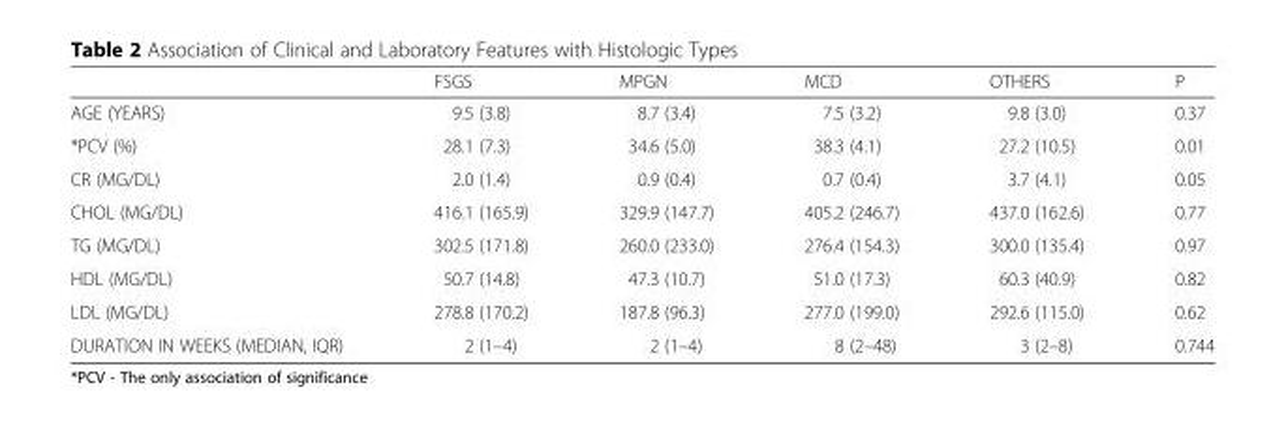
<table><thead><tr><td></td><td>FSGS</td><td>MPGN</td><td>MCD</td><td>OTHERS</td><td>P</td></tr></thead><tbody><tr><td>AGE (YEARS)</td><td>9.5 (3.8)</td><td>8.7 (3.4)</td><td>7.5 (3.2)</td><td>9.8 (3.0)</td><td>0.37</td></tr><tr><td>*PCV (%)</td><td>28.1 (7.3)</td><td>34.6 (5.0)</td><td>38.3 (4.1)</td><td>27.2 (10.5)</td><td>0.01</td></tr><tr><td>CR (MG/DL)</td><td>2.0 (1.4)</td><td>0.9 (0.4)</td><td>0.7 (0.4)</td><td>3.7 (4.1)</td><td>0.05</td></tr><tr><td>CHOL (MG/DL)</td><td>416.1 (165.9)</td><td>329.9 (147.7)</td><td>405.2 (246.7)</td><td>437.0 (162.6)</td><td>0.77</td></tr><tr><td>TG (MG/DL)</td><td>302.5 (171.8)</td><td>260.0 (233.0)</td><td>276.4 (154.3)</td><td>300.0 (135.4)</td><td>0.97</td></tr><tr><td>HDL (MG/DL)</td><td>50.7 (14.8)</td><td>47.3 (10.7)</td><td>51.0 (17.3)</td><td>60.3 (40.9)</td><td>0.82</td></tr><tr><td>LDL (MG/DL)</td><td>278.8 (170.2)</td><td>187.8 (96.3)</td><td>277.0 (199.0)</td><td>292.6 (115.0)</td><td>0.62</td></tr><tr><td>DURATION IN WEEKS (MEDIAN, IQR)</td><td>2 (1–4)</td><td>2 (1–4)</td><td>8 (2–48)</td><td>3 (2–8)</td><td>0.744</td></tr></tbody></table>